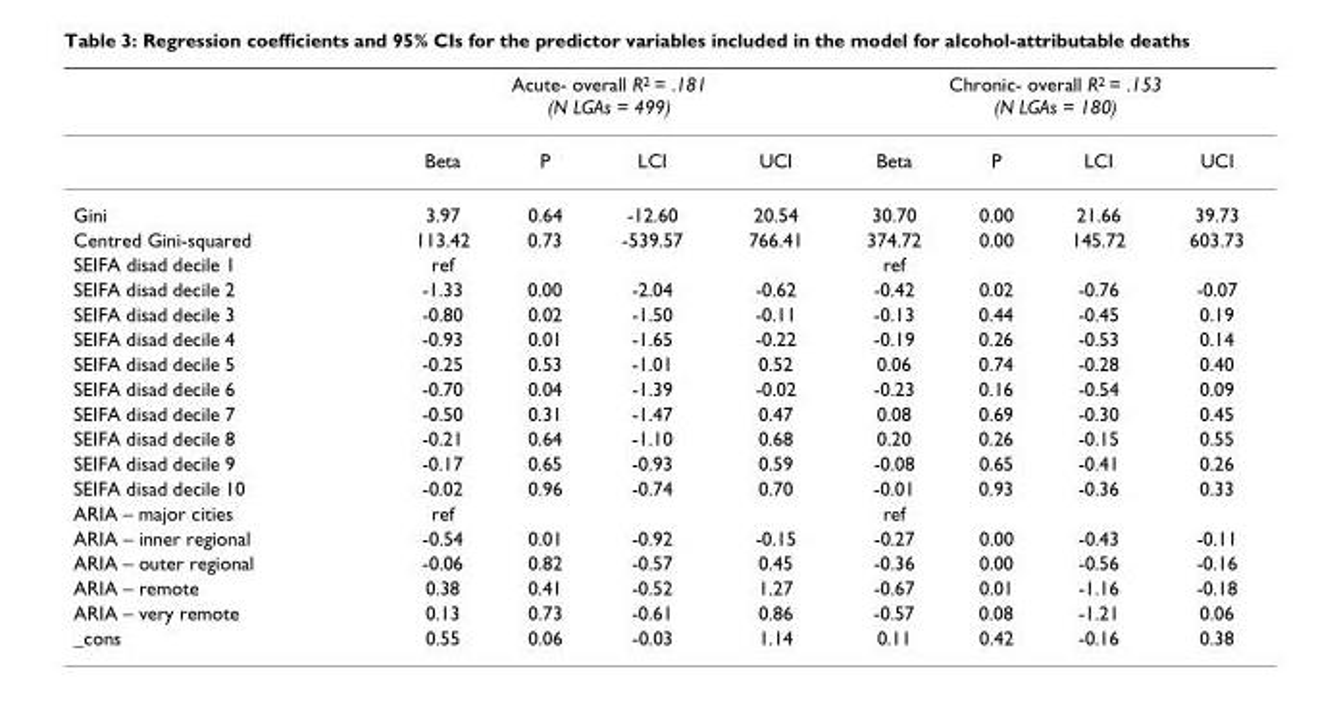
<table><thead><tr><td rowspan="2"></td><td colspan="4">Acute- overall R<sup>2</sup> = .181 (N LGAs = 499)</td><td colspan="4">Chronic- overall R<sup>2</sup> = .153 (N LGAs = 180)</td></tr><tr><td>Beta</td><td>P</td><td>LCI</td><td>UCI</td><td>Beta</td><td>P</td><td>LCI</td><td>UCI</td></tr></thead><tbody><tr><td>Gini</td><td>3.97</td><td>0.64</td><td>-12.60</td><td>20.54</td><td>30.70</td><td>0.00</td><td>21.66</td><td>39.73</td></tr><tr><td>Centred Gini-squared</td><td>113.42</td><td>0.73</td><td>-539.57</td><td>766.41</td><td>374.72</td><td>0.00</td><td>145.72</td><td>603.73</td></tr><tr><td>SEIFA disad decile 1</td><td>ref</td><td></td><td></td><td></td><td>ref</td><td></td><td></td><td></td></tr><tr><td>SEIFA disad decile 2</td><td>-1.33</td><td>0.00</td><td>-2.04</td><td>-0.62</td><td>-0.42</td><td>0.02</td><td>-0.76</td><td>-0.07</td></tr><tr><td>SEIFA disad decile 3</td><td>-0.80</td><td>0.02</td><td>-1.50</td><td>-0.11</td><td>-0.13</td><td>0.44</td><td>-0.45</td><td>0.19</td></tr><tr><td>SEIFA disad decile 4</td><td>-0.93</td><td>0.01</td><td>-1.65</td><td>-0.22</td><td>-0.19</td><td>0.26</td><td>-0.53</td><td>0.14</td></tr><tr><td>SEIFA disad decile 5</td><td>-0.25</td><td>0.53</td><td>-1.01</td><td>0.52</td><td>0.06</td><td>0.74</td><td>-0.28</td><td>0.40</td></tr><tr><td>SEIFA disad decile 6</td><td>-0.70</td><td>0.04</td><td>-1.39</td><td>-0.02</td><td>-0.23</td><td>0.16</td><td>-0.54</td><td>0.09</td></tr><tr><td>SEIFA disad decile 7</td><td>-0.50</td><td>0.31</td><td>-1.47</td><td>0.47</td><td>0.08</td><td>0.69</td><td>-0.30</td><td>0.45</td></tr><tr><td>SEIFA disad decile 8</td><td>-0.21</td><td>0.64</td><td>-1.10</td><td>0.68</td><td>0.20</td><td>0.26</td><td>-0.15</td><td>0.55</td></tr><tr><td>SEIFA disad decile 9</td><td>-0.17</td><td>0.65</td><td>-0.93</td><td>0.59</td><td>-0.08</td><td>0.65</td><td>-0.41</td><td>0.26</td></tr><tr><td>SEIFA disad decile 10</td><td>-0.02</td><td>0.96</td><td>-0.74</td><td>0.70</td><td>-0.01</td><td>0.93</td><td>-0.36</td><td>0.33</td></tr><tr><td>ARIA – major cities</td><td>ref</td><td></td><td></td><td></td><td>ref</td><td></td><td></td><td></td></tr><tr><td>ARIA – inner regional</td><td>-0.54</td><td>0.01</td><td>-0.92</td><td>-0.15</td><td>-0.27</td><td>0.00</td><td>-0.43</td><td>-0.11</td></tr><tr><td>ARIA – outer regional</td><td>-0.06</td><td>0.82</td><td>-0.57</td><td>0.45</td><td>-0.36</td><td>0.00</td><td>-0.56</td><td>-0.16</td></tr><tr><td>ARIA – remote</td><td>0.38</td><td>0.41</td><td>-0.52</td><td>1.27</td><td>-0.67</td><td>0.01</td><td>-1.16</td><td>-0.18</td></tr><tr><td>ARIA – very remote</td><td>0.13</td><td>0.73</td><td>-0.61</td><td>0.86</td><td>-0.57</td><td>0.08</td><td>-1.21</td><td>0.06</td></tr><tr><td>_cons</td><td>0.55</td><td>0.06</td><td>-0.03</td><td>1.14</td><td>0.11</td><td>0.42</td><td>-0.16</td><td>0.38</td></tr></tbody></table>